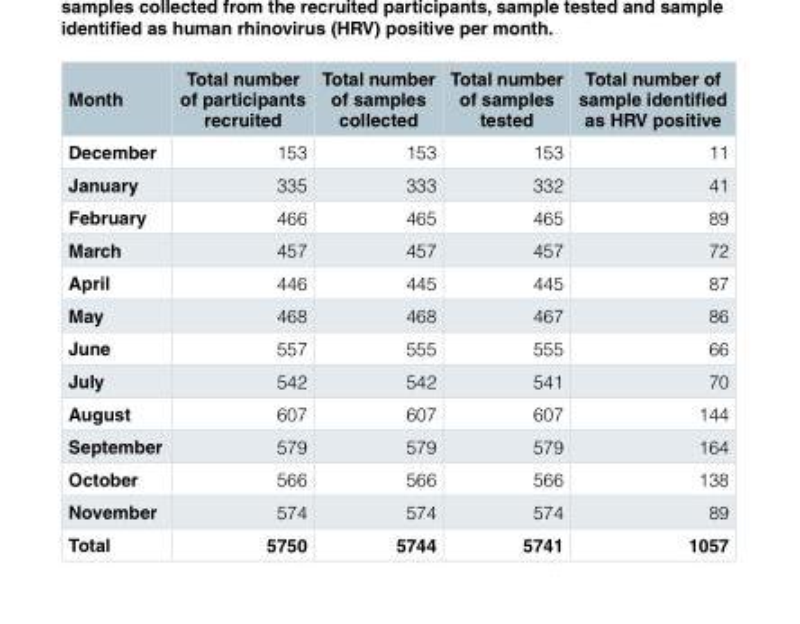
<table><thead><tr><td>Month</td><td>Total number of participants recruited</td><td>Total number of samples collected</td><td>Total number of samples tested</td><td>Total number of sample identified as HRV positive</td></tr></thead><tbody><tr><td>December</td><td>153</td><td>153</td><td>153</td><td>11</td></tr><tr><td>January</td><td>335</td><td>333</td><td>332</td><td>41</td></tr><tr><td>February</td><td>466</td><td>465</td><td>465</td><td>89</td></tr><tr><td>March</td><td>457</td><td>457</td><td>457</td><td>72</td></tr><tr><td>April</td><td>446</td><td>445</td><td>445</td><td>87</td></tr><tr><td>May</td><td>468</td><td>468</td><td>467</td><td>86</td></tr><tr><td>June</td><td>557</td><td>555</td><td>555</td><td>66</td></tr><tr><td>July</td><td>542</td><td>542</td><td>541</td><td>70</td></tr><tr><td>August</td><td>607</td><td>607</td><td>607</td><td>144</td></tr><tr><td>September</td><td>579</td><td>579</td><td>579</td><td>164</td></tr><tr><td>October</td><td>566</td><td>566</td><td>566</td><td>138</td></tr><tr><td>November</td><td>574</td><td>574</td><td>574</td><td>89</td></tr><tr><td>Total</td><td>5750</td><td>5744</td><td>5741</td><td>1057</td></tr></tbody></table>